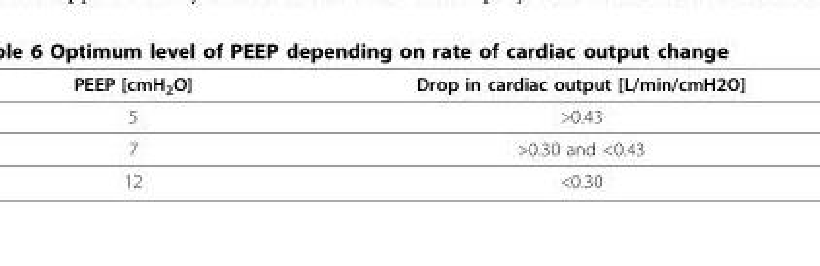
<table><thead><tr><td>PEEP [cmH<sub>2</sub>O]</td><td>Drop in cardiac output [L/min/cmH2O]</td></tr></thead><tbody><tr><td>5</td><td>&gt;0.43</td></tr><tr><td>7</td><td>&gt;0.30 and &lt;0.43</td></tr><tr><td>12</td><td>&lt;0.30</td></tr></tbody></table>